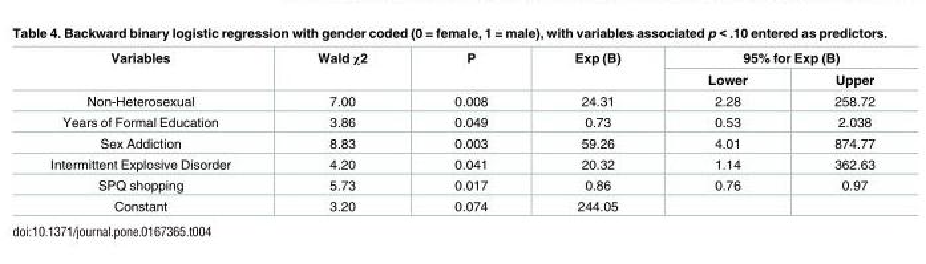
<table><thead><tr><td rowspan="2">Variables</td><td rowspan="2">Wald χ2</td><td rowspan="2">P</td><td rowspan="2">Exp (B)</td><td colspan="2">95% for Exp (B)</td></tr><tr><td>Lower</td><td>Upper</td></tr></thead><tbody><tr><td>Non-Heterosexual</td><td>7.00</td><td>0.008</td><td>24.31</td><td>2.28</td><td>258.72</td></tr><tr><td>Years of Formal Education</td><td>3.86</td><td>0.049</td><td>0.73</td><td>0.53</td><td>2.038</td></tr><tr><td>Sex Addiction</td><td>8.83</td><td>0.003</td><td>59.26</td><td>4.01</td><td>874.77</td></tr><tr><td>Intermittent Explosive Disorder</td><td>4.20</td><td>0.041</td><td>20.32</td><td>1.14</td><td>362.63</td></tr><tr><td>SPQ shopping</td><td>5.73</td><td>0.017</td><td>0.86</td><td>0.76</td><td>0.97</td></tr><tr><td>Constant</td><td>3.20</td><td>0.074</td><td>244.05</td><td></td><td></td></tr></tbody></table>